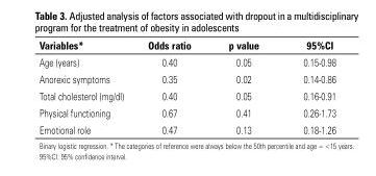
<table><thead><tr><td>Variables*</td><td>odds ratio</td><td>p value</td><td>95%ci</td></tr></thead><tbody><tr><td>Age (years)</td><td>0.40</td><td>0.05</td><td>0.15-0.98</td></tr><tr><td>Anorexic symptoms</td><td>0.35</td><td>0.02</td><td>0.14-0.86</td></tr><tr><td>Total cholesterol (mg/dl)</td><td>0.40</td><td>0.05</td><td>0.16-0.91</td></tr><tr><td>Physical functioning</td><td>0.67</td><td>0.41</td><td>0.26-1.73</td></tr><tr><td>Emotional role</td><td>0.47</td><td>0.13</td><td>0.18-1.26</td></tr></tbody></table>